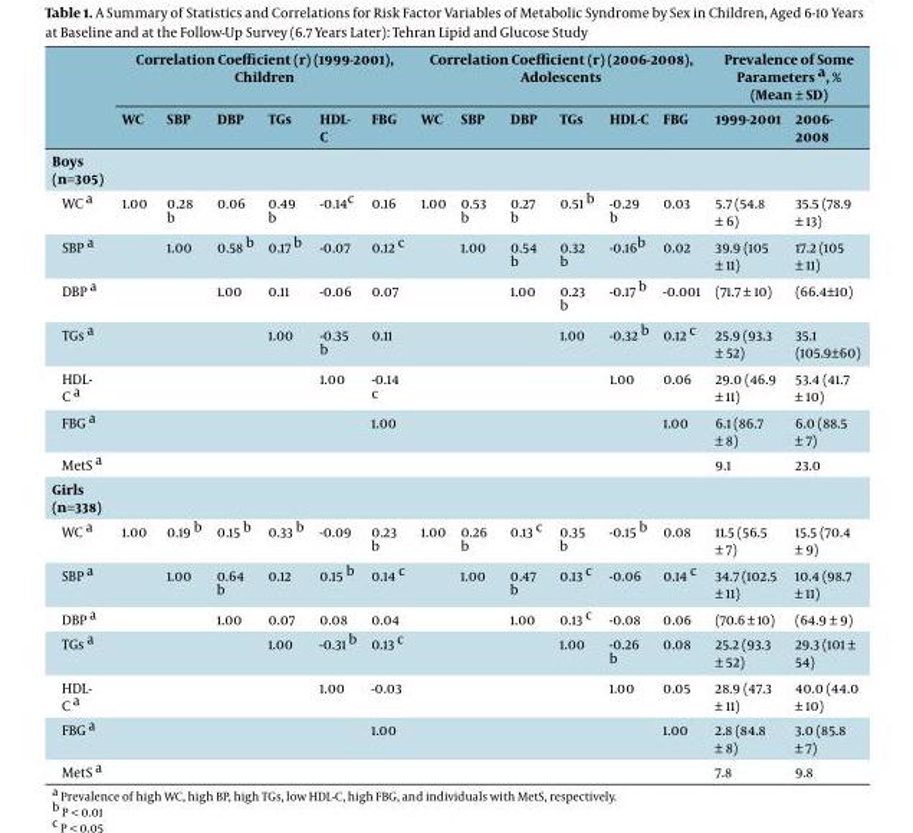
<table><thead><tr><td rowspan="2"></td><td colspan="6">Correlation Coefficient (r) (1999-2001), Children</td><td colspan="6">Correlation Coefficient (r) (2006-2008), Adolescents</td><td colspan="2">Prevalence of Some Parameters a, % (Mean ± SD)</td></tr><tr><td>WC</td><td>SBP</td><td>DBP</td><td>TGs</td><td>HDL- C</td><td>FBG</td><td>WC</td><td>SBP</td><td>DBP</td><td>TGs</td><td>HDL-C</td><td>FBG</td><td>1999-2001</td><td>2006- 2008</td></tr></thead><tbody><tr><td colspan="15">Boys (n=305)</td></tr><tr><td>WC a</td><td>1.00</td><td>0.28 b</td><td>0.06</td><td>0.49 b</td><td>-0.14c</td><td>0.16</td><td>1.00</td><td>0.53 b</td><td>0.27 b</td><td>0.51 b</td><td>-0.29 b</td><td>0.03</td><td>5.7 (54.8 ± 6)</td><td>35.5 (78.9 ± 13)</td></tr><tr><td>SBP a</td><td></td><td>1.00</td><td>0.58 b</td><td>0.17 b</td><td>-0.07</td><td>0.12 c</td><td></td><td>1.00</td><td>0.54 b</td><td>0.32 b</td><td>-0.16b</td><td>0.02</td><td>39.9 (105 ± 11)</td><td>17.2 (105 ± 11)</td></tr><tr><td>DBP a</td><td></td><td></td><td>1.00</td><td>0.11</td><td>-0.06</td><td>0.07</td><td></td><td></td><td>1.00</td><td>0.23 b</td><td>-0.17 b</td><td>-0.001</td><td>(71.7 ± 10)</td><td>(66.4±10)</td></tr><tr><td>TGs a</td><td></td><td></td><td></td><td>1.00</td><td>-0.35 b</td><td>0.11</td><td></td><td></td><td></td><td>1.00</td><td>-0.32 b</td><td>0.12 c</td><td>25.9 (93.3 ± 52)</td><td>35.1 (105.9±60)</td></tr><tr><td>HDL- C a</td><td></td><td></td><td></td><td></td><td>1.00</td><td>-0.14 c</td><td></td><td></td><td></td><td></td><td>1.00</td><td>0.06</td><td>29.0 (46.9 ± 11)</td><td>53.4 (41.7 ± 10)</td></tr><tr><td>FBG a</td><td></td><td></td><td></td><td></td><td></td><td>1.00</td><td></td><td></td><td></td><td></td><td></td><td>1.00</td><td>6.1 (86.7 ± 8)</td><td>6.0 (88.5 ± 7)</td></tr><tr><td>MetS a</td><td></td><td></td><td></td><td></td><td></td><td></td><td></td><td></td><td></td><td></td><td></td><td></td><td>9.1</td><td>23.0</td></tr><tr><td colspan="15">Girls (n=338)</td></tr><tr><td>WC a</td><td>1.00</td><td>0.19 b</td><td>0.15 b</td><td>0.33 b</td><td>-0.09</td><td>0.23 b</td><td>1.00</td><td>0.26 b</td><td>0.13 <sup>c</sup></td><td>0.35 b</td><td>-0.15 b</td><td>0.08</td><td>11.5 (56.5 ± 7)</td><td>15.5 (70.4 ± 9)</td></tr><tr><td>SBP a</td><td></td><td>1.00</td><td>0.64 b</td><td>0.12</td><td>0.15 b</td><td>0.14 c</td><td></td><td>1.00</td><td>0.47 b</td><td>0.13 c</td><td>-0.06</td><td>0.14 c</td><td>34.7 (102.5 ± 11)</td><td>10.4 (98.7 ± 11)</td></tr><tr><td>DBP a</td><td></td><td></td><td>1.00</td><td>0.07</td><td>0.08</td><td>0.04</td><td></td><td></td><td>1.00</td><td>0.13 c</td><td>-0.08</td><td>0.06</td><td>(70.6 ± 10)</td><td>(64.9 ± 9)</td></tr><tr><td>TGs a</td><td></td><td></td><td></td><td>1.00</td><td>-0.31 b</td><td>0.13 c</td><td></td><td></td><td></td><td>1.00</td><td>-0.26 b</td><td>0.08</td><td>25.2 (93.3 ± 52)</td><td>29.3 (101 ± 54)</td></tr><tr><td>HDL- C a</td><td></td><td></td><td></td><td></td><td>1.00</td><td>-0.03</td><td></td><td></td><td></td><td></td><td>1.00</td><td>0.05</td><td>28.9 (47.3 ± 11)</td><td>40.0 (44.0 ± 10)</td></tr><tr><td>FBG a</td><td></td><td></td><td></td><td></td><td></td><td>1.00</td><td></td><td></td><td></td><td></td><td></td><td>1.00</td><td>2.8 (84.8 ± 8)</td><td>3.0 (85.8 ± 7)</td></tr><tr><td>MetS a</td><td></td><td></td><td></td><td></td><td></td><td></td><td></td><td></td><td></td><td></td><td></td><td></td><td>7.8</td><td>9.8</td></tr></tbody></table>